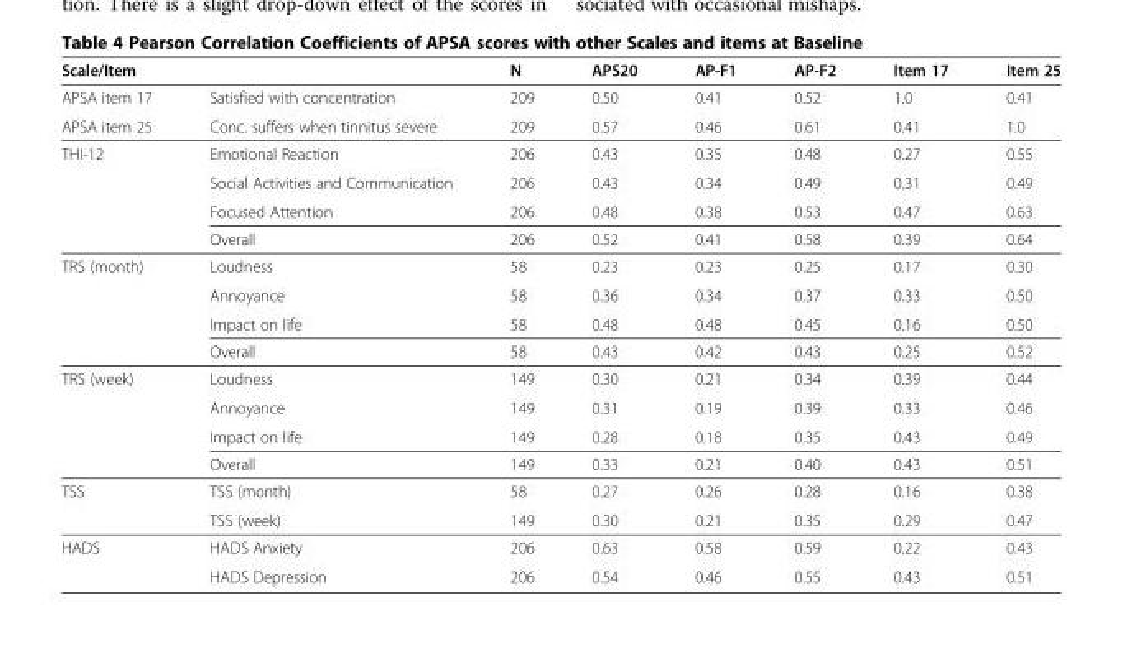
<table><thead><tr><td colspan="2">Scale/Item</td><td rowspan="2">N 209</td><td rowspan="2">APS20 0.50</td><td rowspan="2">AP-F1 0.41</td><td rowspan="2">AP-F2 0.52</td><td rowspan="2">Item 17 1.0</td><td rowspan="2">Item 25 0.41</td></tr><tr><td>APSA item 17</td><td>Satisfied with concentration</td></tr></thead><tbody><tr><td>APSA item 25</td><td>Conc. suffers when tinnitus severe</td><td>209</td><td>0.57</td><td>0.46</td><td>0.61</td><td>0.41</td><td>1.0</td></tr><tr><td rowspan="4">THI-12</td><td>Emotional Reaction</td><td>206</td><td>0.43</td><td>0.35</td><td>0.48</td><td>0.27</td><td>0.55</td></tr><tr><td>Social Activities and Communication</td><td>206</td><td>0.43</td><td>0.34</td><td>0.49</td><td>0.31</td><td>0.49</td></tr><tr><td>Focused Attention</td><td>206</td><td>0.48</td><td>0.38</td><td>0.53</td><td>0.47</td><td>0.63</td></tr><tr><td>Overall</td><td>206</td><td>0.52</td><td>0.41</td><td>0.58</td><td>0.39</td><td>0.64</td></tr><tr><td rowspan="4">TRS (month)</td><td>Loudness</td><td>58</td><td>0.23</td><td>0.23</td><td>0.25</td><td>0.17</td><td>0.30</td></tr><tr><td>Annoyance</td><td>58</td><td>0.36</td><td>0.34</td><td>0.37</td><td>0.33</td><td>0.50</td></tr><tr><td>Impact on life</td><td>58</td><td>0.48</td><td>0.48</td><td>0.45</td><td>0.16</td><td>0.50</td></tr><tr><td>Overall</td><td>58</td><td>0.43</td><td>0.42</td><td>0.43</td><td>0.25</td><td>0.52</td></tr><tr><td rowspan="4">TRS (week)</td><td>Loudness</td><td>149</td><td>0.30</td><td>0.21</td><td>0.34</td><td>0.39</td><td>0.44</td></tr><tr><td>Annoyance</td><td>149</td><td>0.31</td><td>0.19</td><td>0.39</td><td>0.33</td><td>0.46</td></tr><tr><td>Impact on life</td><td>149</td><td>0.28</td><td>0.18</td><td>0.35</td><td>0.43</td><td>0.49</td></tr><tr><td>Overall</td><td>149</td><td>0.33</td><td>0.21</td><td>0.40</td><td>0.43</td><td>0.51</td></tr><tr><td rowspan="2">TSS</td><td>TSS (month)</td><td>58</td><td>0.27</td><td>0.26</td><td>0.28</td><td>0.16</td><td>0.38</td></tr><tr><td>TSS (week)</td><td>149</td><td>0.30</td><td>0.21</td><td>0.35</td><td>0.29</td><td>0.47</td></tr><tr><td rowspan="2">HADS</td><td>HADS Anxiety</td><td>206</td><td>0.63</td><td>0.58</td><td>0.59</td><td>0.22</td><td>0.43</td></tr><tr><td>HADS Depression</td><td>206</td><td>0.54</td><td>0.46</td><td>0.55</td><td>0.43</td><td>0.51</td></tr></tbody></table>